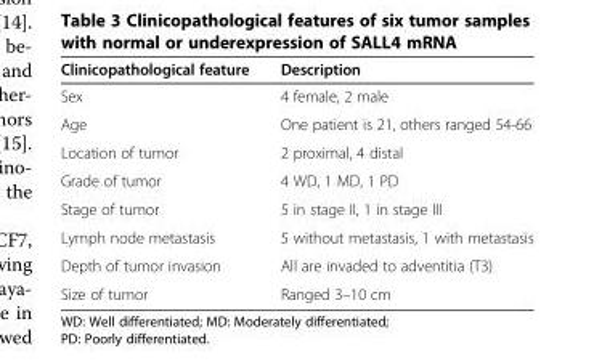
<table><thead><tr><td>Clinicopathological feature</td><td>Description</td></tr></thead><tbody><tr><td>Sex</td><td>4 female, 2 male</td></tr><tr><td>Age</td><td>One patient is 21, others ranged 54-66</td></tr><tr><td>Location of tumor</td><td>2 proximal, 4 distal</td></tr><tr><td>Grade of tumor</td><td>4 WD, 1 MD, 1 PD</td></tr><tr><td>Stage of tumor</td><td>5 in stage II, 1 in stage III</td></tr><tr><td>Lymph node metastasis</td><td>5 without metastasis, 1 with metastasis</td></tr><tr><td>Depth of tumor invasion</td><td>All are invaded to adventitia (T3)</td></tr><tr><td>Size of tumor</td><td>Ranged 3–10 cm</td></tr></tbody></table>